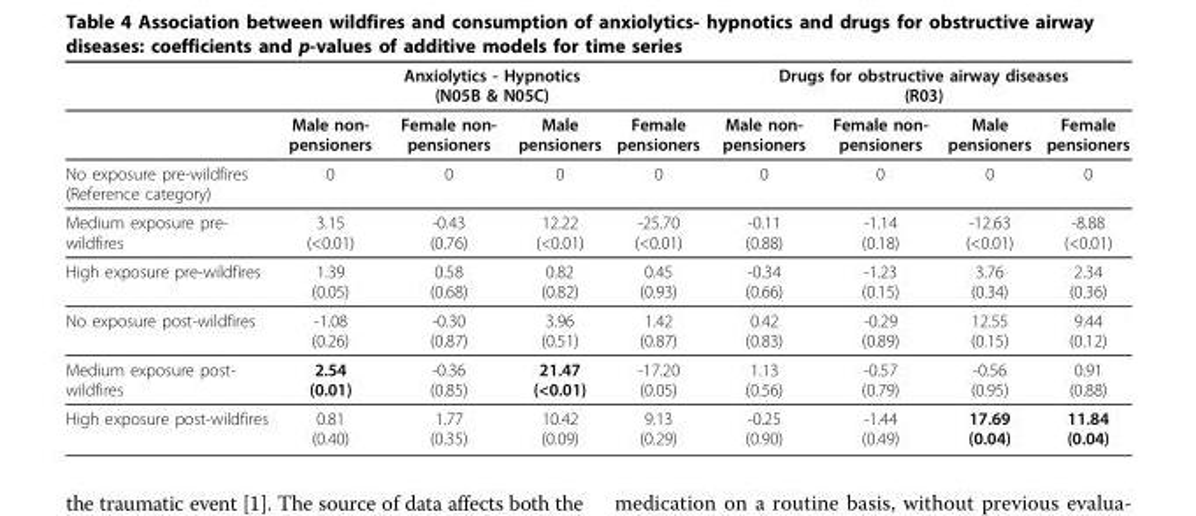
<table><thead><tr><td rowspan="2"></td><td colspan="4">Anxiolytics - Hypnotics (N05B &amp; N05C)</td><td colspan="4">Drugs for obstructive airway diseases (R03)</td></tr><tr><td>Male non- pensioners</td><td>Female non- pensioners</td><td>Male pensioners</td><td>Female pensioners</td><td>Male non- pensioners</td><td>Female non- pensioners</td><td>Male pensioners</td><td>Female pensioners</td></tr></thead><tbody><tr><td>No exposure pre-wildfires (Reference category)</td><td>0</td><td>0</td><td>0</td><td>0</td><td>0</td><td>0</td><td>0</td><td>0</td></tr><tr><td>Medium exposure pre- wildfires</td><td>3.15 (&lt;0.01)</td><td>-0.43 (0.76)</td><td>12.22 (&lt;0.01)</td><td>-25.70 (&lt;0.01)</td><td>-0.11 (0.88)</td><td>-1.14 (0.18)</td><td>-12.63 (&lt;0.01)</td><td>-8.88 (&lt;0.01)</td></tr><tr><td>High exposure pre-wildfires</td><td>1.39 (0.05)</td><td>0.58 (0.68)</td><td>0.82 (0.82)</td><td>0.45 (0.93)</td><td>-0.34 (0.66)</td><td>-1.23 (0.15)</td><td>3.76 (0.34)</td><td>2.34 (0.36)</td></tr><tr><td>No exposure post-wildfires</td><td>-1.08 (0.26)</td><td>-0.30 (0.87)</td><td>3.96 (0.51)</td><td>1.42 (0.87)</td><td>0.42 (0.83)</td><td>-0.29 (0.89)</td><td>12.55 (0.15)</td><td>9.44 (0.12)</td></tr><tr><td>Medium exposure post- wildfires</td><td>2.54 (0.01)</td><td>-0.36 (0.85)</td><td>21.47 (&lt;0.01)</td><td>-17.20 (0.05)</td><td>1.13 (0.56)</td><td>-0.57 (0.79)</td><td>-0.56 (0.95)</td><td>0.91 (0.88)</td></tr><tr><td>High exposure post-wildfires</td><td>0.81 (0.40)</td><td>1.77 (0.35)</td><td>10.42 (0.09)</td><td>9.13 (0.29)</td><td>-0.25 (0.90)</td><td>-1.44 (0.49)</td><td>17.69 (0.04)</td><td>11.84 (0.04)</td></tr></tbody></table>